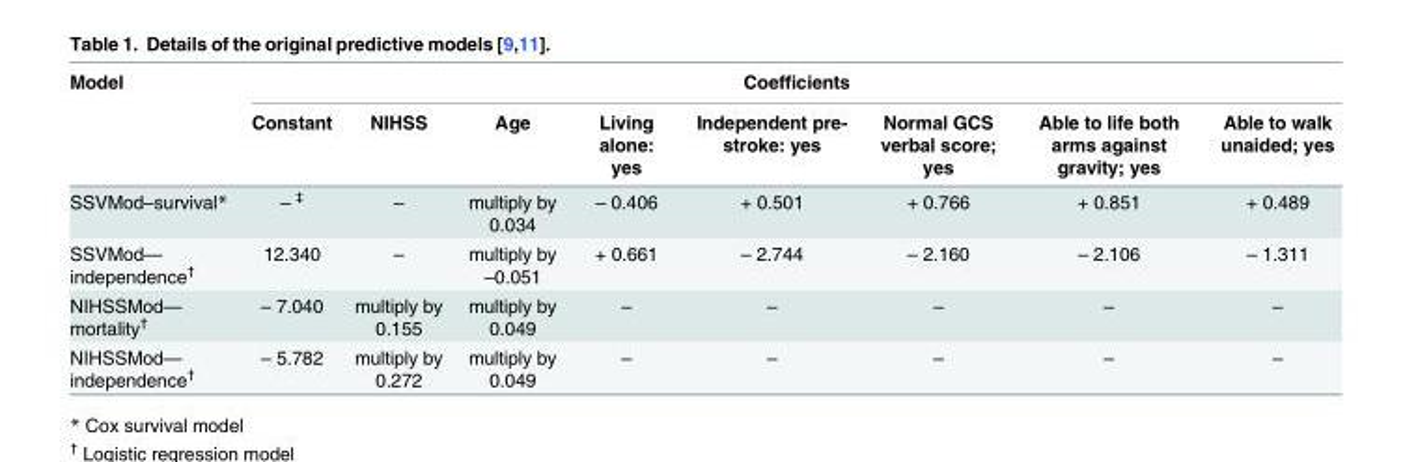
<table><thead><tr><td rowspan="2">Model</td><td colspan="8">Coefficients</td></tr><tr><td>Constant</td><td>NIHSS</td><td>Age</td><td>Living alone: yes</td><td>Independent pre- stroke: yes</td><td>Normal GCS verbal score; yes</td><td>Able to life both arms against gravity; yes</td><td>Able to walk unaided; yes</td></tr></thead><tbody><tr><td>SSVMod–survival*</td><td>– <sup>‡</sup></td><td>–</td><td>multiply by 0.034</td><td>– 0.406</td><td>+ 0.501</td><td>+ 0.766</td><td>+ 0.851</td><td>+ 0.489</td></tr><tr><td>SSVMod— independence<sup>†</sup></td><td>12.340</td><td>–</td><td>multiply by –0.051</td><td>+ 0.661</td><td>– 2.744</td><td>– 2.160</td><td>– 2.106</td><td>– 1.311</td></tr><tr><td>NIHSSMod— mortality<sup>†</sup></td><td>– 7.040</td><td>multiply by 0.155</td><td>multiply by 0.049</td><td>–</td><td>–</td><td>–</td><td>–</td><td>–</td></tr><tr><td>NIHSSMod— independence<sup>†</sup></td><td>– 5.782</td><td>multiply by 0.272</td><td>multiply by 0.049</td><td>–</td><td>–</td><td>–</td><td>–</td><td>–</td></tr></tbody></table>